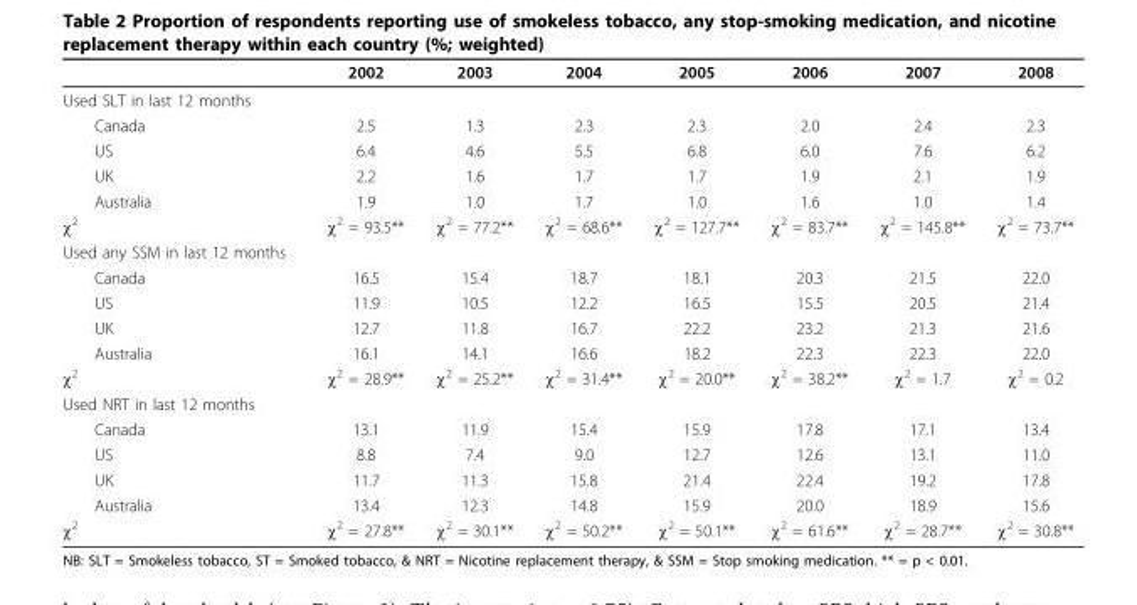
<table><thead><tr><td></td><td>2002</td><td>2003</td><td>2004</td><td>2005</td><td>2006</td><td>2007</td><td>2008</td></tr></thead><tbody><tr><td colspan="8">Used SLT in last 12 months</td></tr><tr><td>Canada</td><td>2.5</td><td>1.3</td><td>2.3</td><td>2.3</td><td>2.0</td><td>2.4</td><td>2.3</td></tr><tr><td>US</td><td>6.4</td><td>4.6</td><td>5.5</td><td>6.8</td><td>6.0</td><td>7.6</td><td>6.2</td></tr><tr><td>UK</td><td>2.2</td><td>1.6</td><td>1.7</td><td>1.7</td><td>1.9</td><td>2.1</td><td>1.9</td></tr><tr><td>Australia</td><td>1.9</td><td>1.0</td><td>1.7</td><td>1.0</td><td>1.6</td><td>1.0</td><td>1.4</td></tr><tr><td>χ<sup>2</sup></td><td>χ<sup>2</sup> = 93.5**</td><td>χ<sup>2</sup> = 77.2**</td><td>χ<sup>2</sup> = 68.6**</td><td>χ<sup>2</sup> = 127.7**</td><td>χ<sup>2</sup> = 83.7**</td><td>χ<sup>2</sup> = 145.8**</td><td>χ<sup>2</sup> = 73.7**</td></tr><tr><td colspan="8">Used any SSM in last 12 months</td></tr><tr><td>Canada</td><td>16.5</td><td>15.4</td><td>18.7</td><td>18.1</td><td>20.3</td><td>21.5</td><td>22.0</td></tr><tr><td>US</td><td>11.9</td><td>10.5</td><td>12.2</td><td>16.5</td><td>15.5</td><td>20.5</td><td>21.4</td></tr><tr><td>UK</td><td>12.7</td><td>11.8</td><td>16.7</td><td>22.2</td><td>23.2</td><td>21.3</td><td>21.6</td></tr><tr><td>Australia</td><td>16.1</td><td>14.1</td><td>16.6</td><td>18.2</td><td>22.3</td><td>22.3</td><td>22.0</td></tr><tr><td>χ<sup>2</sup></td><td>χ<sup>2</sup> = 28.9**</td><td>χ<sup>2</sup> = 25.2**</td><td>χ<sup>2</sup> = 31.4**</td><td>χ<sup>2</sup> = 20.0**</td><td>χ<sup>2</sup> = 38.2**</td><td>χ<sup>2</sup> = 1.7</td><td>χ<sup>2</sup> = 0.2</td></tr><tr><td colspan="8">Used NRT in last 12 months</td></tr><tr><td>Canada</td><td>13.1</td><td>11.9</td><td>15.4</td><td>15.9</td><td>17.8</td><td>17.1</td><td>13.4</td></tr><tr><td>US</td><td>8.8</td><td>7.4</td><td>9.0</td><td>12.7</td><td>12.6</td><td>13.1</td><td>11.0</td></tr><tr><td>UK</td><td>11.7</td><td>11.3</td><td>15.8</td><td>21.4</td><td>22.4</td><td>19.2</td><td>17.8</td></tr><tr><td>Australia</td><td>13.4</td><td>12.3</td><td>14.8</td><td>15.9</td><td>20.0</td><td>18.9</td><td>15.6</td></tr><tr><td>χ<sup>2</sup></td><td>χ<sup>2</sup> = 27.8**</td><td>χ<sup>2</sup> = 30.1**</td><td>χ<sup>2</sup> = 50.2**</td><td>χ<sup>2</sup> = 50.1**</td><td>χ<sup>2</sup> = 61.6**</td><td>χ<sup>2</sup> = 28.7**</td><td>χ<sup>2</sup> = 30.8**</td></tr></tbody></table>